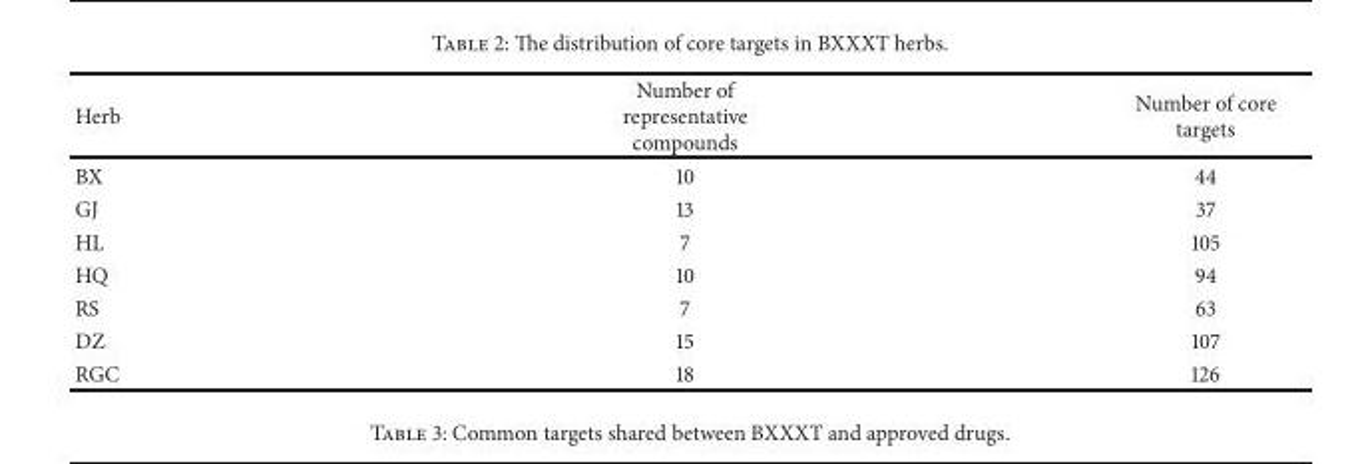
<table><thead><tr><td>Herb</td><td>Number of representative compounds</td><td>Number of core targets</td></tr></thead><tbody><tr><td>BX</td><td>10</td><td>44</td></tr><tr><td>GJ</td><td>13</td><td>37</td></tr><tr><td>HL</td><td>7</td><td>105</td></tr><tr><td>HQ</td><td>10</td><td>94</td></tr><tr><td>RS</td><td>7</td><td>63</td></tr><tr><td>DZ</td><td>15</td><td>107</td></tr><tr><td>RGC</td><td>18</td><td>126</td></tr></tbody></table>